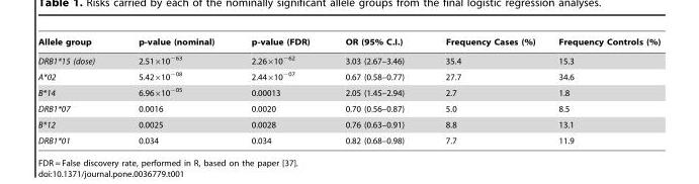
<table><thead><tr><td>Allele group</td><td>p-value (nominal)</td><td>p-value (FDR)</td><td>OR (95% C.I.)</td><td>Frequency Cases (%)</td><td>Frequency Controls (%)</td></tr></thead><tbody><tr><td>DRB1*15 (dose)</td><td>2.51×10<sup>−63</sup></td><td>2.26×10<sup>−62</sup></td><td>3.03 (2.67–3.46)</td><td>35.4</td><td>15.3</td></tr><tr><td>A*02</td><td>5.42×10<sup>−08</sup></td><td>2.44×10<sup>−07</sup></td><td>0.67 (0.58–0.77)</td><td>27.7</td><td>34.6</td></tr><tr><td>B*14</td><td>6.96×10<sup>−05</sup></td><td>0.00013</td><td>2.05 (1.45–2.94)</td><td>2.7</td><td>1.8</td></tr><tr><td>DRB1*07</td><td>0.0016</td><td>0.0020</td><td>0.70 (0.56–0.87)</td><td>5.0</td><td>8.5</td></tr><tr><td>B*12</td><td>0.0025</td><td>0.0028</td><td>0.76 (0.63–0.91)</td><td>8.8</td><td>13.1</td></tr><tr><td>DRB1*01</td><td>0.034</td><td>0.034</td><td>0.82 (0.68–0.98)</td><td>7.7</td><td>11.9</td></tr></tbody></table>